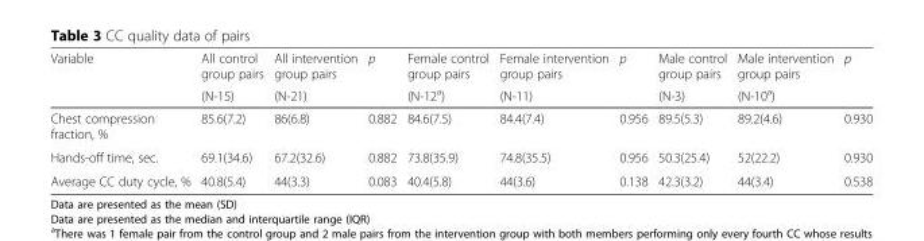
<table><thead><tr><td rowspan="2">Variable</td><td rowspan="2">All control group pairs (N-15)</td><td rowspan="2">All intervention group pairs (N-21)</td><td rowspan="2">p</td><td rowspan="2">Female control group pairs (N-12<sup>a</sup>)</td><td rowspan="2">Female intervention group pairs (N-11)</td><td rowspan="2">p</td><td rowspan="2">Male control group pairs (N-3)</td><td rowspan="2">Male intervention group pairs (N-10<sup>a</sup>)</td><td rowspan="2">p</td></tr><tr></tr></thead><tbody><tr><td>Chest compression fraction, %</td><td>85.6(7.2)</td><td>86(6.8)</td><td>0.882</td><td>84.6(7.5)</td><td>84.4(7.4)</td><td>0.956</td><td>89.5(5.3)</td><td>89.2(4.6)</td><td>0.930</td></tr><tr><td>Hands-off time, sec.</td><td>69.1(34.6)</td><td>67.2(32.6)</td><td>0.882</td><td>73.8(35.9)</td><td>74.8(35.5)</td><td>0.956</td><td>50.3(25.4)</td><td>52(22.2)</td><td>0.930</td></tr><tr><td>Average CC duty cycle, %</td><td>40.8(5.4)</td><td>44(3.3)</td><td>0.083</td><td>40.4(5.8)</td><td>44(3.6)</td><td>0.138</td><td>42.3(3.2)</td><td>44(3.4)</td><td>0.538</td></tr></tbody></table>